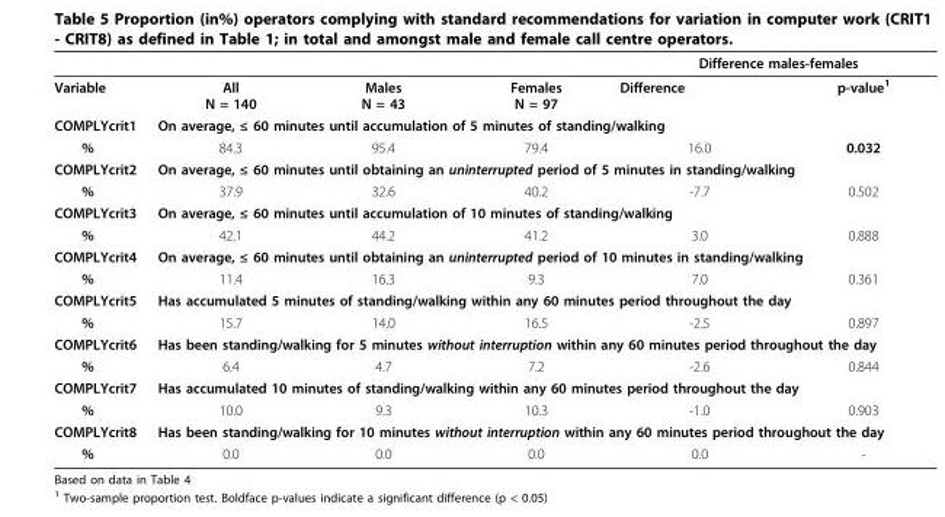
<table><thead><tr><td rowspan="2">Variable</td><td rowspan="2">All N = 140</td><td rowspan="2">Males N = 43</td><td rowspan="2">Females N = 97</td><td colspan="2">Difference males-females</td></tr><tr><td>Difference</td><td>p-value<sup>1</sup></td></tr></thead><tbody><tr><td>COMPLYcrit1</td><td colspan="5">On average, ≤ 60 minutes until accumulation of 5 minutes of standing/walking</td></tr><tr><td>%</td><td>84.3</td><td>95.4</td><td>79.4</td><td>16.0</td><td>0.032</td></tr><tr><td>COMPLYcrit2</td><td colspan="5">On average, ≤ 60 minutes until obtaining an uninterrupted period of 5 minutes in standing/walking</td></tr><tr><td>%</td><td>37.9</td><td>32.6</td><td>40.2</td><td>-7.7</td><td>0.502</td></tr><tr><td>COMPLYcrit3</td><td colspan="5">On average, ≤ 60 minutes until accumulation of 10 minutes of standing/walking</td></tr><tr><td>%</td><td>42.1</td><td>44.2</td><td>41.2</td><td>3.0</td><td>0.888</td></tr><tr><td>COMPLYcrit4</td><td colspan="5">On average, ≤ 60 minutes until obtaining an uninterrupted period of 10 minutes in standing/walking</td></tr><tr><td>%</td><td>11.4</td><td>16.3</td><td>9.3</td><td>7.0</td><td>0.361</td></tr><tr><td>COMPLYcrit5</td><td colspan="5">Has accumulated 5 minutes of standing/walking within any 60 minutes period throughout the day</td></tr><tr><td>%</td><td>15.7</td><td>14.0</td><td>16.5</td><td>-2.5</td><td>0.897</td></tr><tr><td>COMPLYcrit6</td><td colspan="5">Has been standing/walking for 5 minutes without interruption within any 60 minutes period throughout the day</td></tr><tr><td>%</td><td>6.4</td><td>4.7</td><td>7.2</td><td>-2.6</td><td>0.844</td></tr><tr><td>COMPLYcrit7</td><td colspan="5">Has accumulated 10 minutes of standing/walking within any 60 minutes period throughout the day</td></tr><tr><td>%</td><td>10.0</td><td>9.3</td><td>10.3</td><td>-1.0</td><td>0.903</td></tr><tr><td>COMPLYcrit8</td><td colspan="5">Has been standing/walking for 10 minutes without interruption within any 60 minutes period throughout the day</td></tr><tr><td>%</td><td>0.0</td><td>0.0</td><td>0.0</td><td>0.0</td><td>-</td></tr></tbody></table>